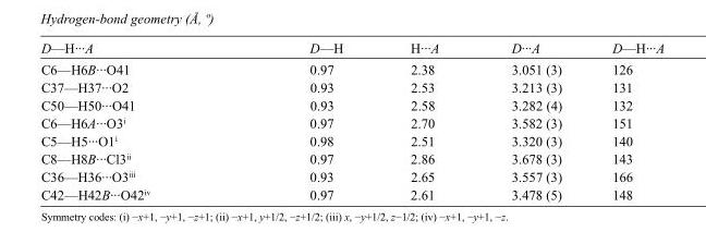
<table><tbody><tr><td>D—H···A</td><td>D—H</td><td>H···A</td><td>D···A</td><td>D—H···A</td></tr><tr><td>C6—H6B···O41</td><td>0.97</td><td>2.38</td><td>3.051 (3)</td><td>126</td></tr><tr><td>C37—H37···O2</td><td>0.93</td><td>2.53</td><td>3.213 (3)</td><td>131</td></tr><tr><td>C50—H50···O41</td><td>0.93</td><td>2.58</td><td>3.282 (4)</td><td>132</td></tr><tr><td>C6—H6A···O3<sup>i</sup></td><td>0.97</td><td>2.70</td><td>3.582 (3)</td><td>151</td></tr><tr><td>C5—H5···O1<sup>i</sup></td><td>0.98</td><td>2.51</td><td>3.320 (3)</td><td>140</td></tr><tr><td>C8—H8B···Cl3<sup>ii</sup></td><td>0.97</td><td>2.86</td><td>3.678 (3)</td><td>143</td></tr><tr><td>C36—H36···O3<sup>iii</sup></td><td>0.93</td><td>2.65</td><td>3.557 (3)</td><td>166</td></tr><tr><td>C42—H42B···O42<sup>iv</sup></td><td>0.97</td><td>2.61</td><td>3.478 (5)</td><td>148</td></tr></tbody></table>